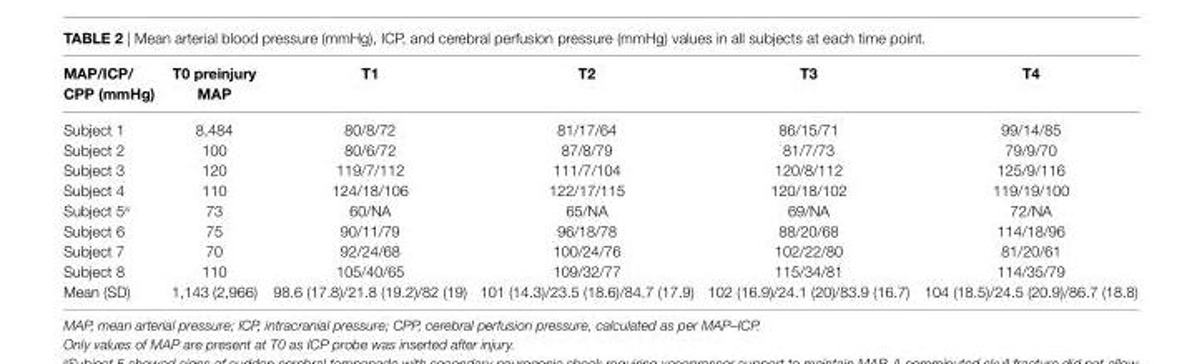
<table><thead><tr><td>MaP/icP/ cPP (mmhg)</td><td>T0 preinjury MaP</td><td>T1</td><td>T2</td><td>T3</td><td>T4</td></tr></thead><tbody><tr><td>Subject 1</td><td>8,484</td><td>80/8/72</td><td>81/17/64</td><td>86/15/71</td><td>99/14/85</td></tr><tr><td>Subject 2</td><td>100</td><td>80/6/72</td><td>87/8/79</td><td>81/7/73</td><td>79/9/70</td></tr><tr><td>Subject 3</td><td>120</td><td>119/7/112</td><td>111/7/104</td><td>120/8/112</td><td>125/9/116</td></tr><tr><td>Subject 4</td><td>110</td><td>124/18/106</td><td>122/17/115</td><td>120/18/102</td><td>119/19/100</td></tr><tr><td>Subject 5<sup>a</sup></td><td>73</td><td>60/NA</td><td>65/NA</td><td>69/NA</td><td>72/NA</td></tr><tr><td>Subject 6</td><td>75</td><td>90/11/79</td><td>96/18/78</td><td>88/20/68</td><td>114/18/96</td></tr><tr><td>Subject 7</td><td>70</td><td>92/24/68</td><td>100/24/76</td><td>102/22/80</td><td>81/20/61</td></tr><tr><td>Subject 8</td><td>110</td><td>105/40/65</td><td>109/32/77</td><td>115/34/81</td><td>114/35/79</td></tr><tr><td>Mean (SD)</td><td>1,143 (2,966)</td><td>98.6 (17.8)/21.8 (19.2)/82 (19)</td><td>101 (14.3)/23.5 (18.6)/84.7 (17.9)</td><td>102 (16.9)/24.1 (20)/83.9 (16.7)</td><td>104 (18.5)/24.5 (20.9)/86.7 (18.8)</td></tr></tbody></table>